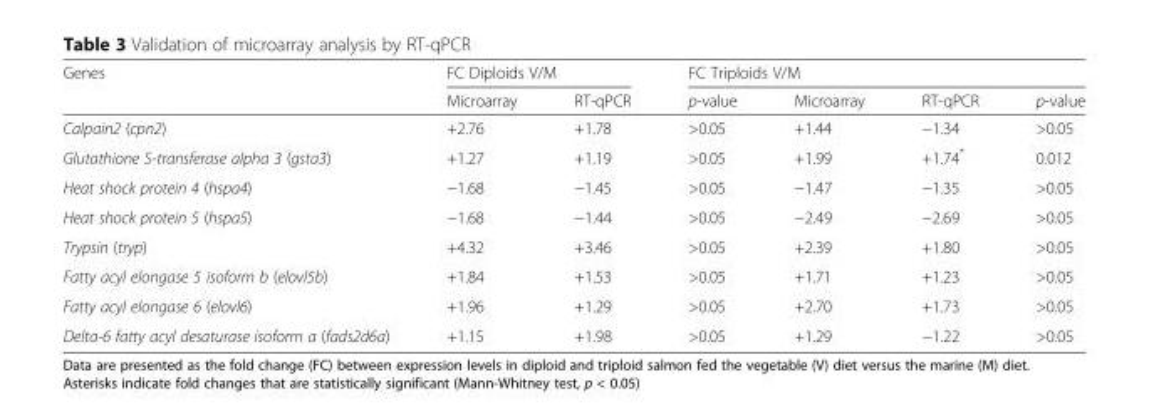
<table><thead><tr><td rowspan="2">Genes</td><td colspan="2">FC Diploids V/M</td><td colspan="4">FC Triploids V/M</td></tr><tr><td>Microarray</td><td>RT-qPCR</td><td>p-value</td><td>Microarray</td><td>RT-qPCR</td><td>p-value</td></tr></thead><tbody><tr><td>Calpain2 (cpn2)</td><td>+2.76</td><td>+1.78</td><td>&gt;0.05</td><td>+1.44</td><td>−1.34</td><td>&gt;0.05</td></tr><tr><td>Glutathione S-transferase alpha 3 (gsta3)</td><td>+1.27</td><td>+1.19</td><td>&gt;0.05</td><td>+1.99</td><td>+1.74*</td><td>0.012</td></tr><tr><td>Heat shock protein 4 (hspa4)</td><td>−1.68</td><td>−1.45</td><td>&gt;0.05</td><td>−1.47</td><td>−1.35</td><td>&gt;0.05</td></tr><tr><td>Heat shock protein 5 (hspa5)</td><td>−1.68</td><td>−1.44</td><td>&gt;0.05</td><td>−2.49</td><td>−2.69</td><td>&gt;0.05</td></tr><tr><td>Trypsin (tryp)</td><td>+4.32</td><td>+3.46</td><td>&gt;0.05</td><td>+2.39</td><td>+1.80</td><td>&gt;0.05</td></tr><tr><td>Fatty acyl elongase 5 isoform b (elovl5b)</td><td>+1.84</td><td>+1.53</td><td>&gt;0.05</td><td>+1.71</td><td>+1.23</td><td>&gt;0.05</td></tr><tr><td>Fatty acyl elongase 6 (elovl6)</td><td>+1.96</td><td>+1.29</td><td>&gt;0.05</td><td>+2.70</td><td>+1.73</td><td>&gt;0.05</td></tr><tr><td>Delta-6 fatty acyl desaturase isoform a (fads2d6a)</td><td>+1.15</td><td>+1.98</td><td>&gt;0.05</td><td>+1.29</td><td>−1.22</td><td>&gt;0.05</td></tr></tbody></table>